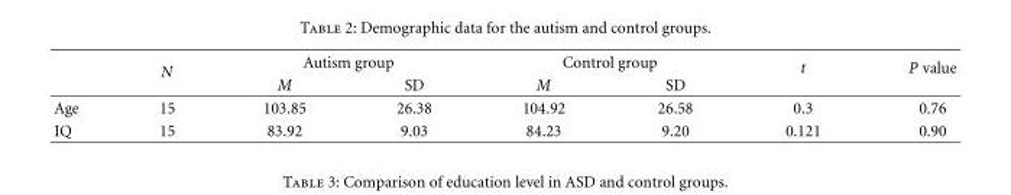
<table><thead><tr><td rowspan="2"></td><td rowspan="2">N</td><td colspan="2">Autism group</td><td colspan="2">Control group</td><td rowspan="2">t</td><td rowspan="2">P value</td></tr><tr><td>M</td><td>SD</td><td>M</td><td>SD</td></tr></thead><tbody><tr><td>Age</td><td>15</td><td>103.85</td><td>26.38</td><td>104.92</td><td>26.58</td><td>0.3</td><td>0.76</td></tr><tr><td>IQ</td><td>15</td><td>83.92</td><td>9.03</td><td>84.23</td><td>9.20</td><td>0.121</td><td>0.90</td></tr></tbody></table>